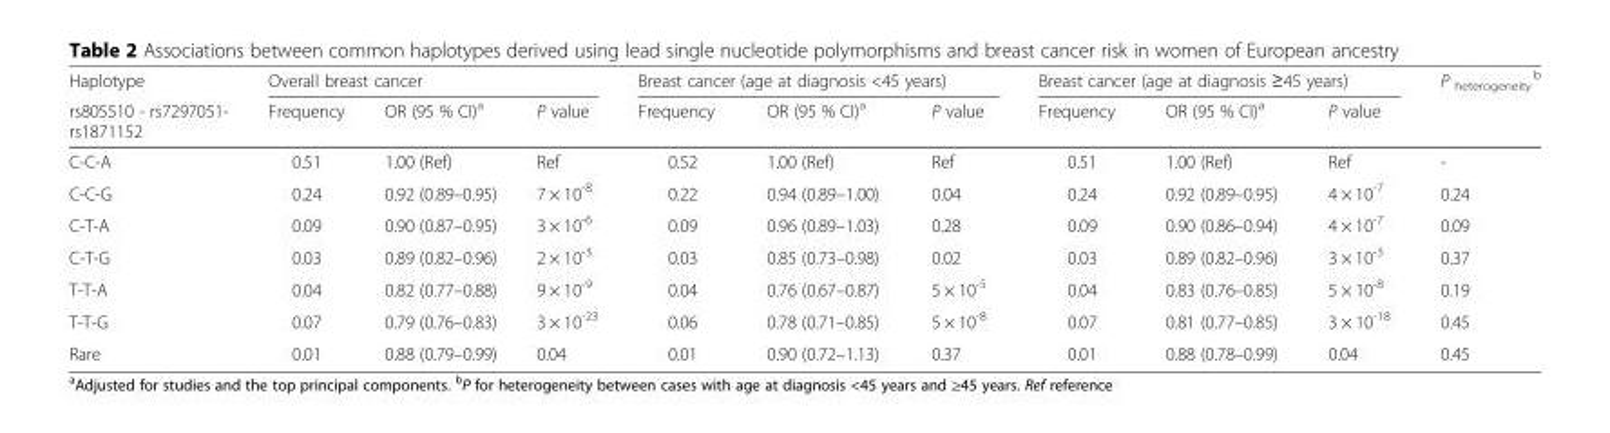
<table><thead><tr><td rowspan="2">Haplotype rs805510 - rs7297051- rs1871152</td><td colspan="3">Overall breast cancer</td><td colspan="3">Breast cancer (age at diagnosis &lt;45 years)</td><td colspan="3">Breast cancer (age at diagnosis ≥45 years)</td><td rowspan="2">P <sub>heterogeneity</sub> <sup>b</sup></td></tr><tr><td>Frequency</td><td>OR (95 % CI)<sup>a</sup></td><td>P value</td><td>Frequency</td><td>OR (95 % CI)<sup>a</sup></td><td>P value</td><td>Frequency</td><td>OR (95 % CI)<sup>a</sup></td><td>P value</td></tr></thead><tbody><tr><td>C-C-A</td><td>0.51</td><td>1.00 (Ref)</td><td>Ref</td><td>0.52</td><td>1.00 (Ref)</td><td>Ref</td><td>0.51</td><td>1.00 (Ref)</td><td>Ref</td><td>-</td></tr><tr><td>C-C-G</td><td>0.24</td><td>0.92 (0.89–0.95)</td><td>7 × 10<sup>-8</sup></td><td>0.22</td><td>0.94 (0.89–1.00)</td><td>0.04</td><td>0.24</td><td>0.92 (0.89–0.95)</td><td>4 × 10<sup>-7</sup></td><td>0.24</td></tr><tr><td>C-T-A</td><td>0.09</td><td>0.90 (0.87–0.95)</td><td>3 × 10<sup>-6</sup></td><td>0.09</td><td>0.96 (0.89–1.03)</td><td>0.28</td><td>0.09</td><td>0.90 (0.86–0.94)</td><td>4 × 10<sup>-7</sup></td><td>0.09</td></tr><tr><td>C-T-G</td><td>0.03</td><td>0.89 (0.82–0.96)</td><td>2 × 10<sup>-3</sup></td><td>0.03</td><td>0.85 (0.73–0.98)</td><td>0.02</td><td>0.03</td><td>0.89 (0.82–0.96)</td><td>3 × 10<sup>-3</sup></td><td>0.37</td></tr><tr><td>T-T-A</td><td>0.04</td><td>0.82 (0.77–0.88)</td><td>9 × 10<sup>-9</sup></td><td>0.04</td><td>0.76 (0.67–0.87)</td><td>5 × 10<sup>-5</sup></td><td>0.04</td><td>0.83 (0.76–0.85)</td><td>5 × 10<sup>-8</sup></td><td>0.19</td></tr><tr><td>T-T-G</td><td>0.07</td><td>0.79 (0.76–0.83)</td><td>3 × 10<sup>-23</sup></td><td>0.06</td><td>0.78 (0.71–0.85)</td><td>5 × 10<sup>-8</sup></td><td>0.07</td><td>0.81 (0.77–0.85)</td><td>3 × 10<sup>-18</sup></td><td>0.45</td></tr><tr><td>Rare</td><td>0.01</td><td>0.88 (0.79–0.99)</td><td>0.04</td><td>0.01</td><td>0.90 (0.72–1.13)</td><td>0.37</td><td>0.01</td><td>0.88 (0.78–0.99)</td><td>0.04</td><td>0.45</td></tr></tbody></table>